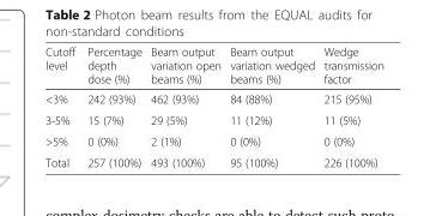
<table><thead><tr><td>Cutoff level</td><td>Percentage depth dose (%)</td><td>Beam output variation open beams (%)</td><td>Beam output variation wedged beams (%)</td><td>Wedge transmission factor</td></tr></thead><tbody><tr><td>&lt;3%</td><td>242 (93%)</td><td>462 (93%)</td><td>84 (88%)</td><td>215 (95%)</td></tr><tr><td>3-5%</td><td>15 (7%)</td><td>29 (5%)</td><td>11 (12%)</td><td>11 (5%)</td></tr><tr><td>&gt;5%</td><td>0 (0%)</td><td>2 (1%)</td><td>0 (0%)</td><td>0 (0%)</td></tr><tr><td>Total</td><td>257 (100%)</td><td>493 (100%)</td><td>95 (100%)</td><td>226 (100%)</td></tr></tbody></table>